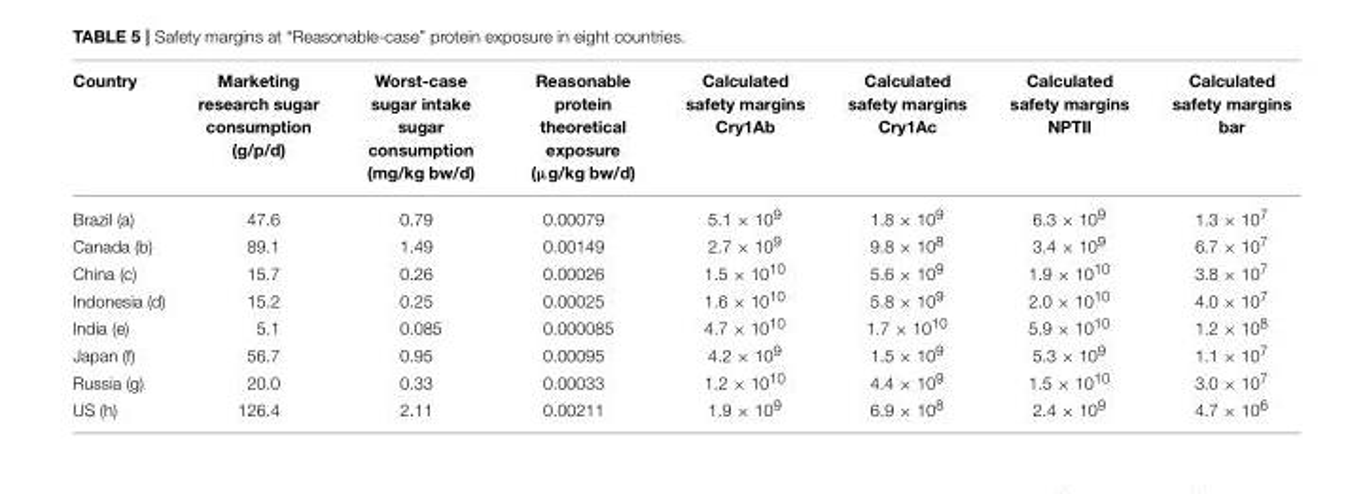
<table><thead><tr><td>Country</td><td>Marketing research sugar consumption (g/p/d)</td><td>Worst-case sugar intake sugar consumption (mg/kg bw/d)</td><td>Reasonable protein theoretical exposure (µg/kg bw/d)</td><td>Calculated safety margins Cry1Ab</td><td>Calculated safety margins Cry1Ac</td><td>Calculated safety margins NPTII</td><td>Calculated safety margins bar</td></tr></thead><tbody><tr><td>Brazil (a)</td><td>47.6</td><td>0.79</td><td>0.00079</td><td>5.1 × 10<sup>9</sup></td><td>1.8 × 10<sup>9</sup></td><td>6.3 × 10<sup>9</sup></td><td>1.3 × 10<sup>7</sup></td></tr><tr><td>Canada (b)</td><td>89.1</td><td>1.49</td><td>0.00149</td><td>2.7 × 10<sup>9</sup></td><td>9.8 × 10<sup>8</sup></td><td>3.4 × 10<sup>9</sup></td><td>6.7 × 10<sup>7</sup></td></tr><tr><td>China (c)</td><td>15.7</td><td>0.26</td><td>0.00026</td><td>1.5 × 10<sup>10</sup></td><td>5.6 × 10<sup>9</sup></td><td>1.9 × 10<sup>10</sup></td><td>3.8 × 10<sup>7</sup></td></tr><tr><td>Indonesia (d)</td><td>15.2</td><td>0.25</td><td>0.00025</td><td>1.6 × 10<sup>10</sup></td><td>5.8 × 10<sup>9</sup></td><td>2.0 × 10<sup>10</sup></td><td>4.0 × 10<sup>7</sup></td></tr><tr><td>India (e)</td><td>5.1</td><td>0.085</td><td>0.000085</td><td>4.7 × 10<sup>10</sup></td><td>1.7 × 10<sup>10</sup></td><td>5.9 × 10<sup>10</sup></td><td>1.2 × 10<sup>8</sup></td></tr><tr><td>Japan (f)</td><td>56.7</td><td>0.95</td><td>0.00095</td><td>4.2 × 10<sup>9</sup></td><td>1.5 × 10<sup>9</sup></td><td>5.3 × 10<sup>9</sup></td><td>1.1 × 10<sup>7</sup></td></tr><tr><td>Russia (g)</td><td>20.0</td><td>0.33</td><td>0.00033</td><td>1.2 × 10<sup>10</sup></td><td>4.4 × 10<sup>9</sup></td><td>1.5 × 10<sup>10</sup></td><td>3.0 × 10<sup>7</sup></td></tr><tr><td>US (h)</td><td>126.4</td><td>2.11</td><td>0.00211</td><td>1.9 × 10<sup>9</sup></td><td>6.9 × 10<sup>8</sup></td><td>2.4 × 10<sup>9</sup></td><td>4.7 × 10<sup>6</sup></td></tr></tbody></table>